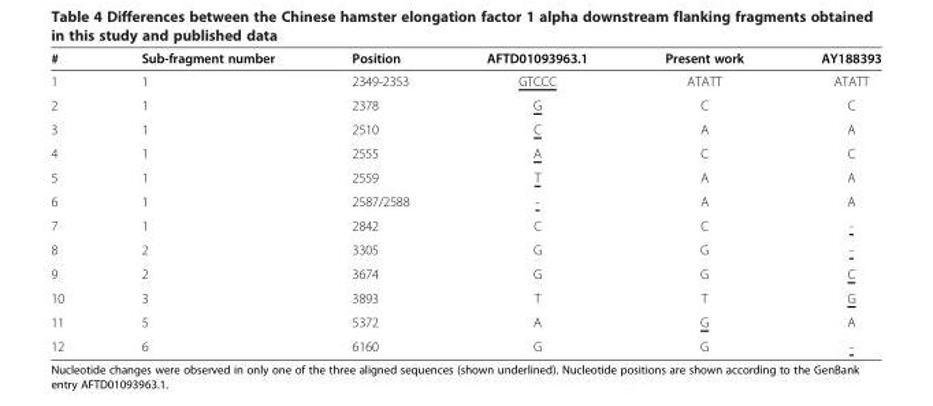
<table><thead><tr><td>#</td><td>Sub-fragment number</td><td>Position</td><td>AFTD01093963.1</td><td>Present work</td><td>AY188393</td></tr></thead><tbody><tr><td>1</td><td>1</td><td>2349-2353</td><td>GTCCC</td><td>ATATT</td><td>ATATT</td></tr><tr><td>2</td><td>1</td><td>2378</td><td>G</td><td>C</td><td>C</td></tr><tr><td>3</td><td>1</td><td>2510</td><td>C</td><td>A</td><td>A</td></tr><tr><td>4</td><td>1</td><td>2555</td><td>A</td><td>C</td><td>C</td></tr><tr><td>5</td><td>1</td><td>2559</td><td>T</td><td>A</td><td>A</td></tr><tr><td>6</td><td>1</td><td>2587/2588</td><td>-</td><td>A</td><td>A</td></tr><tr><td>7</td><td>1</td><td>2842</td><td>C</td><td>C</td><td>-</td></tr><tr><td>8</td><td>2</td><td>3305</td><td>G</td><td>G</td><td>-</td></tr><tr><td>9</td><td>2</td><td>3674</td><td>G</td><td>G</td><td>C</td></tr><tr><td>10</td><td>3</td><td>3893</td><td>T</td><td>T</td><td>G</td></tr><tr><td>11</td><td>5</td><td>5372</td><td>A</td><td>G</td><td>A</td></tr><tr><td>12</td><td>6</td><td>6160</td><td>G</td><td>G</td><td>-</td></tr></tbody></table>